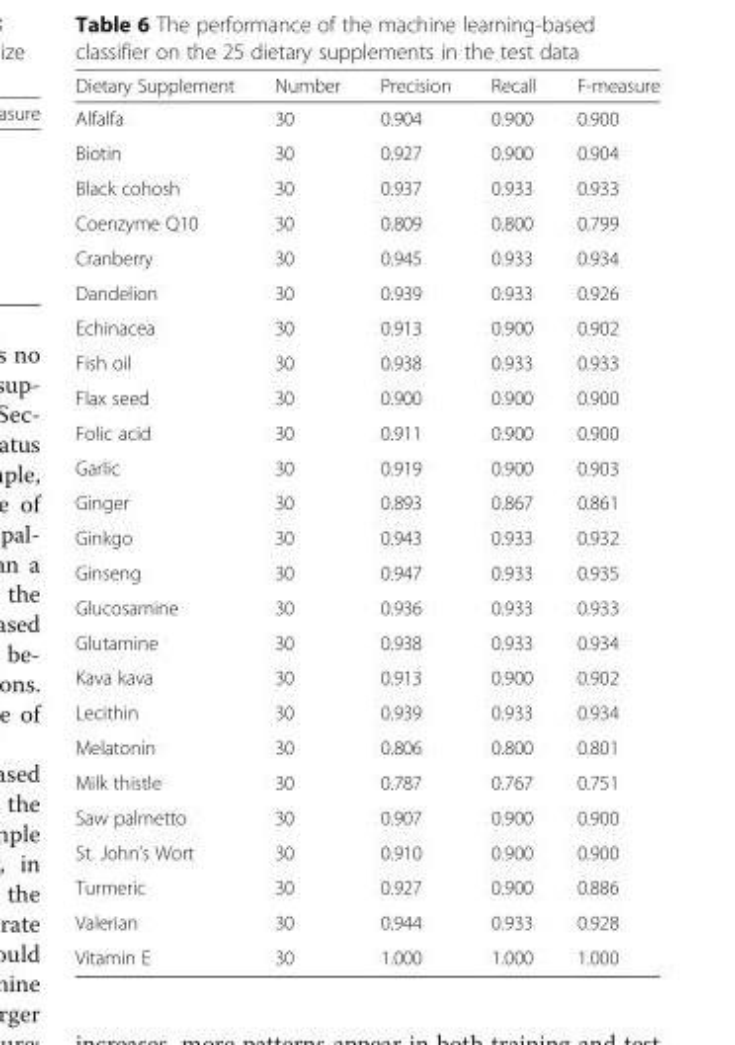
<table><thead><tr><td>Dietary Supplement</td><td>Number</td><td>Precision</td><td>Recall</td><td>F-measure</td></tr></thead><tbody><tr><td>Alfalfa</td><td>30</td><td>0.904</td><td>0.900</td><td>0.900</td></tr><tr><td>Biotin</td><td>30</td><td>0.927</td><td>0.900</td><td>0.904</td></tr><tr><td>Black cohosh</td><td>30</td><td>0.937</td><td>0.933</td><td>0.933</td></tr><tr><td>Coenzyme Q10</td><td>30</td><td>0.809</td><td>0.800</td><td>0.799</td></tr><tr><td>Cranberry</td><td>30</td><td>0.945</td><td>0.933</td><td>0.934</td></tr><tr><td>Dandelion</td><td>30</td><td>0.939</td><td>0.933</td><td>0.926</td></tr><tr><td>Echinacea</td><td>30</td><td>0.913</td><td>0.900</td><td>0.902</td></tr><tr><td>Fish oil</td><td>30</td><td>0.938</td><td>0.933</td><td>0.933</td></tr><tr><td>Flax seed</td><td>30</td><td>0.900</td><td>0.900</td><td>0.900</td></tr><tr><td>Folic acid</td><td>30</td><td>0.911</td><td>0.900</td><td>0.900</td></tr><tr><td>Garlic</td><td>30</td><td>0.919</td><td>0.900</td><td>0.903</td></tr><tr><td>Ginger</td><td>30</td><td>0.893</td><td>0.867</td><td>0.861</td></tr><tr><td>Ginkgo</td><td>30</td><td>0.943</td><td>0.933</td><td>0.932</td></tr><tr><td>Ginseng</td><td>30</td><td>0.947</td><td>0.933</td><td>0.935</td></tr><tr><td>Glucosamine</td><td>30</td><td>0.936</td><td>0.933</td><td>0.933</td></tr><tr><td>Glutamine</td><td>30</td><td>0.938</td><td>0.933</td><td>0.934</td></tr><tr><td>Kava kava</td><td>30</td><td>0.913</td><td>0.900</td><td>0.902</td></tr><tr><td>Lecithin</td><td>30</td><td>0.939</td><td>0.933</td><td>0.934</td></tr><tr><td>Melatonin</td><td>30</td><td>0.806</td><td>0.800</td><td>0.801</td></tr><tr><td>Milk thistle</td><td>30</td><td>0.787</td><td>0.767</td><td>0.751</td></tr><tr><td>Saw palmetto</td><td>30</td><td>0.907</td><td>0.900</td><td>0.900</td></tr><tr><td>St. John’s Wort</td><td>30</td><td>0.910</td><td>0.900</td><td>0.900</td></tr><tr><td>Turmeric</td><td>30</td><td>0.927</td><td>0.900</td><td>0.886</td></tr><tr><td>Valerian</td><td>30</td><td>0.944</td><td>0.933</td><td>0.928</td></tr><tr><td>Vitamin E</td><td>30</td><td>1.000</td><td>1.000</td><td>1.000</td></tr></tbody></table>